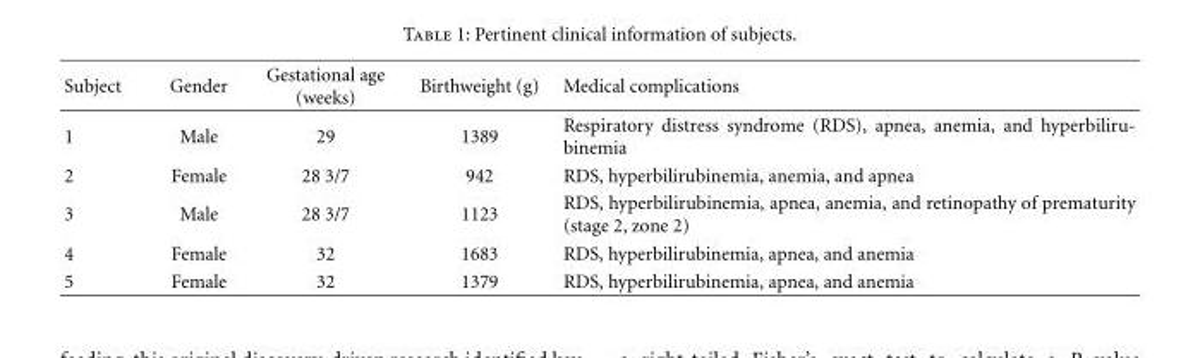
<table><thead><tr><td>Subject</td><td>Gender</td><td>Gestational age (weeks)</td><td>Birthweight (g)</td><td>Medical complications</td></tr></thead><tbody><tr><td>1</td><td>Male</td><td>29</td><td>1389</td><td>Respiratory distress syndrome (RDS), apnea, anemia, and hyperbiliru- binemia</td></tr><tr><td>2</td><td>Female</td><td>28 3/7</td><td>942</td><td>RDS, hyperbilirubinemia, anemia, and apnea</td></tr><tr><td>3</td><td>Male</td><td>28 3/7</td><td>1123</td><td>RDS, hyperbilirubinemia, apnea, anemia, and retinopathy of prematurity (stage 2, zone 2)</td></tr><tr><td>4</td><td>Female</td><td>32</td><td>1683</td><td>RDS, hyperbilirubinemia, apnea, and anemia</td></tr><tr><td>5</td><td>Female</td><td>32</td><td>1379</td><td>RDS, hyperbilirubinemia, apnea, and anemia</td></tr></tbody></table>